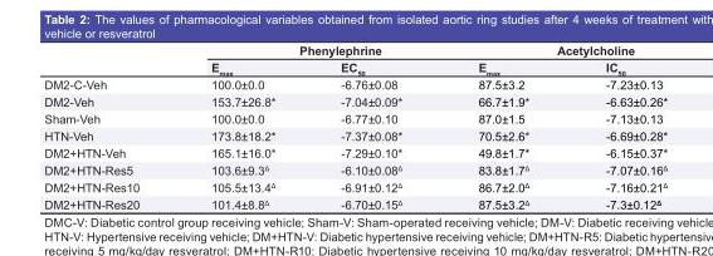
<table><thead><tr><td rowspan="2"></td><td colspan="2">Phenylephrine</td><td colspan="2">Acetylcholine</td></tr><tr><td>E<sub>max</sub></td><td>EC<sub>50</sub></td><td>E<sub>max</sub></td><td>IC<sub>50</sub></td></tr></thead><tbody><tr><td>DM2-C-Veh</td><td>100.0±0.0</td><td>-6.76±0.08</td><td>87.5±3.2</td><td>-7.23±0.13</td></tr><tr><td>DM2-Veh</td><td>153.7±26.8*</td><td>-7.04±0.09*</td><td>66.7±1.9*</td><td>-6.63±0.26*</td></tr><tr><td>Sham-Veh</td><td>100.0±0.0</td><td>-6.77±0.10</td><td>87.0±1.5</td><td>-7.13±0.13</td></tr><tr><td>HTN-Veh</td><td>173.8±18.2*</td><td>-7.37±0.08*</td><td>70.5±2.6*</td><td>-6.69±0.28*</td></tr><tr><td>DM2+HTN-Veh</td><td>165.1±16.0*</td><td>-7.29±0.10*</td><td>49.8±1.7*</td><td>-6.15±0.37*</td></tr><tr><td>DM2+HTN-Res5</td><td>103.6±9.3<sup>Δ</sup></td><td>-6.10±0.08<sup>Δ</sup></td><td>83.8±1.7<sup>Δ</sup></td><td>-7.07±0.16<sup>Δ</sup></td></tr><tr><td>DM2+HTN-Res10</td><td>105.5±13.4<sup>Δ</sup></td><td>-6.91±0.12<sup>Δ</sup></td><td>86.7±2.0<sup>Δ</sup></td><td>-7.16±0.21<sup>Δ</sup></td></tr><tr><td>DM2+HTN-Res20</td><td>101.4±8.8<sup>Δ</sup></td><td>-6.70±0.15<sup>Δ</sup></td><td>87.5±3.2<sup>Δ</sup></td><td>-7.3±0.12<sup>Δ</sup></td></tr></tbody></table>